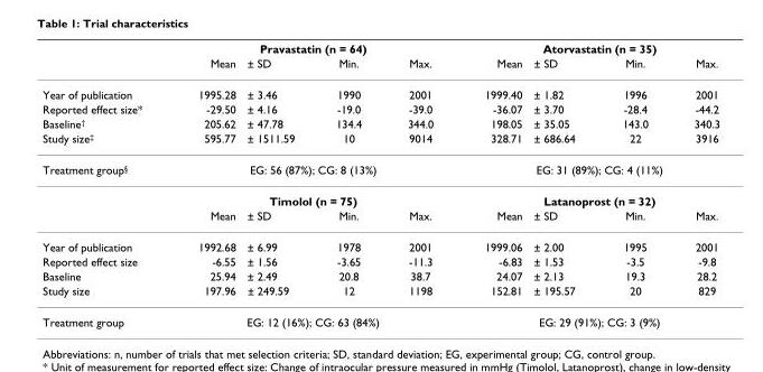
<table><thead><tr><td rowspan="2"></td><td colspan="4">Pravastatin (n = 64)</td><td colspan="4">Atorvastatin (n = 35)</td></tr><tr><td>Mean</td><td>± SD</td><td>Min.</td><td>Max.</td><td>Mean</td><td>± SD</td><td>Min.</td><td>Max.</td></tr></thead><tbody><tr><td>Year of publication</td><td>1995.28</td><td>± 3.46</td><td>1990</td><td>2001</td><td>1999.40</td><td>± 1.82</td><td>1996</td><td>2001</td></tr><tr><td>Reported effect size*</td><td>-29.50</td><td>± 4.16</td><td>-19.0</td><td>-39.0</td><td>-36.07</td><td>± 3.70</td><td>-28.4</td><td>-44.2</td></tr><tr><td>Baseline<sup>†</sup></td><td>205.62</td><td>± 47.78</td><td>134.4</td><td>344.0</td><td>198.05</td><td>± 35.05</td><td>143.0</td><td>340.3</td></tr><tr><td>Study size<sup>‡</sup></td><td>595.77</td><td>± 1511.59</td><td>10</td><td>9014</td><td>328.71</td><td>± 686.64</td><td>22</td><td>3916</td></tr><tr><td rowspan="3">Treatment group<sup>§</sup></td><td colspan="4">EG: 56 (87%); CG: 8 (13%)</td><td colspan="4">EG: 31 (89%); CG: 4 (11%)</td></tr><tr><td colspan="4">Timolol (n = 75)</td><td colspan="4">Latanoprost (n = 32)</td></tr><tr><td>Mean</td><td>± SD</td><td>Min.</td><td>Max.</td><td>Mean</td><td>± SD</td><td>Min.</td><td>Max.</td></tr><tr><td>Year of publication</td><td>1992.68</td><td>± 6.99</td><td>1978</td><td>2001</td><td>1999.06</td><td>± 2.00</td><td>1995</td><td>2001</td></tr><tr><td>Reported effect size</td><td>-6.55</td><td>± 1.56</td><td>-3.65</td><td>-11.3</td><td>-6.83</td><td>± 1.53</td><td>-3.5</td><td>-9.8</td></tr><tr><td>Baseline</td><td>25.94</td><td>± 2.49</td><td>20.8</td><td>38.7</td><td>24.07</td><td>± 2.13</td><td>19.3</td><td>28.2</td></tr><tr><td>Study size</td><td>197.96</td><td>± 249.59</td><td>12</td><td>1198</td><td>152.81</td><td>± 195.57</td><td>20</td><td>829</td></tr><tr><td>Treatment group</td><td colspan="4">EG: 12 (16%); CG: 63 (84%)</td><td colspan="4">EG: 29 (91%); CG: 3 (9%)</td></tr></tbody></table>